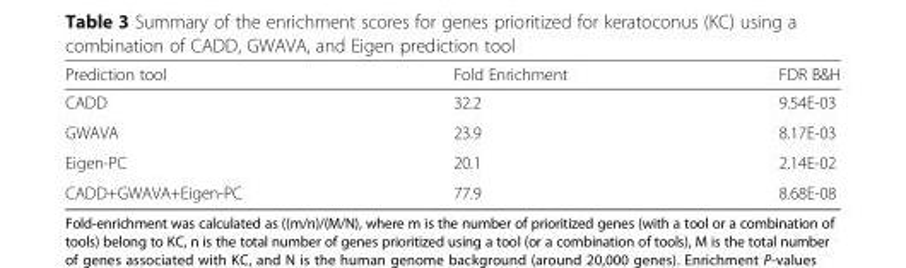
<table><thead><tr><td>Prediction tool</td><td>Fold Enrichment</td><td>FDR B&amp;H</td></tr></thead><tbody><tr><td>CADD</td><td>32.2</td><td>9.54E-03</td></tr><tr><td>GWAVA</td><td>23.9</td><td>8.17E-03</td></tr><tr><td>Eigen-PC</td><td>20.1</td><td>2.14E-02</td></tr><tr><td>CADD+GWAVA+Eigen-PC</td><td>77.9</td><td>8.68E-08</td></tr></tbody></table>